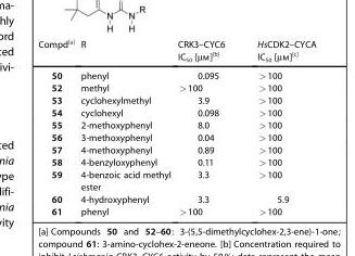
<table><thead><tr><td>Compd[a]</td><td>R</td><td>CRK3–CYC6 IC<sub>50</sub> [μm][b]</td><td>HsCDK2–CYCA IC<sub>50</sub> [μm][c]</td></tr></thead><tbody><tr><td>50</td><td>phenyl</td><td>0.095</td><td>&gt;100</td></tr><tr><td>52</td><td>methyl</td><td>&gt;100</td><td>&gt;100</td></tr><tr><td>53</td><td>cyclohexylmethyl</td><td>3.9</td><td>&gt;100</td></tr><tr><td>54</td><td>cyclohexyl</td><td>0.098</td><td>&gt;100</td></tr><tr><td>55</td><td>2-methoxyphenyl</td><td>8.0</td><td>&gt;100</td></tr><tr><td>56</td><td>3-methoxyphenyl</td><td>0.04</td><td>&gt;100</td></tr><tr><td>57</td><td>4-methoxyphenyl</td><td>0.89</td><td>&gt;100</td></tr><tr><td>58</td><td>4-benzyloxyphenyl</td><td>0.11</td><td>&gt;100</td></tr><tr><td>59</td><td>4-benzoic acid methyl ester</td><td>3.3</td><td>&gt;100</td></tr><tr><td>60</td><td>4-hydroxyphenyl</td><td>3.3</td><td>5.9</td></tr><tr><td>61</td><td>phenyl</td><td>&gt;100</td><td>&gt;100</td></tr></tbody></table>